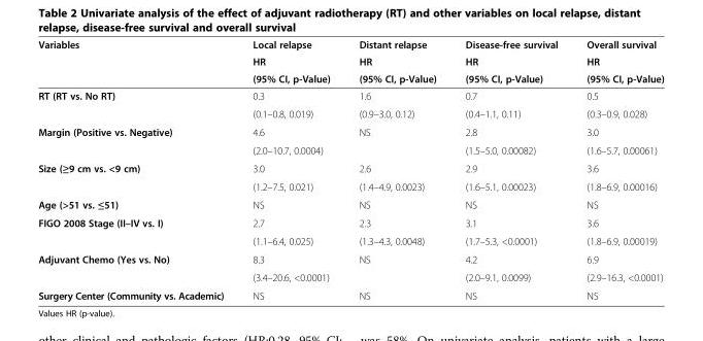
<table><thead><tr><td rowspan="3">Variables</td><td rowspan="3">Local relapse HR (95% CI, p-Value)</td><td rowspan="3">Distant relapse HR (95% CI, p-Value)</td><td rowspan="3">Disease-free survival HR (95% CI, p-Value)</td><td rowspan="3">Overall survival HR (95% CI, p-Value)</td></tr><tr></tr><tr></tr></thead><tbody><tr><td rowspan="2">RT (RT vs. No RT)</td><td>0.3</td><td>1.6</td><td>0.7</td><td>0.5</td></tr><tr><td>(0.1–0.8, 0.019)</td><td>(0.9–3.0, 0.12)</td><td>(0.4–1.1, 0.11)</td><td>(0.3–0.9, 0.028)</td></tr><tr><td rowspan="2">Margin (Positive vs. Negative)</td><td>4.6</td><td rowspan="2">NS</td><td>2.8</td><td>3.0</td></tr><tr><td>(2.0–10.7, 0.0004)</td><td>(1.5–5.0, 0.00082)</td><td>(1.6–5.7, 0.00061)</td></tr><tr><td rowspan="2">Size (≥9 cm vs. &lt;9 cm)</td><td>3.0</td><td>2.6</td><td>2.9</td><td>3.6</td></tr><tr><td>(1.2–7.5, 0.021)</td><td>(1.4–4.9, 0.0023)</td><td>(1.6–5.1, 0.00023)</td><td>(1.8–6.9, 0.00016)</td></tr><tr><td>Age (&gt;51 vs. ≤51)</td><td>NS</td><td>NS</td><td>NS</td><td>NS</td></tr><tr><td rowspan="2">FIGO 2008 Stage (II–IV vs. I)</td><td>2.7</td><td>2.3</td><td>3.1</td><td>3.6</td></tr><tr><td>(1.1–6.4, 0.025)</td><td>(1.3–4.3, 0.0048)</td><td>(1.7–5.3, &lt;0.0001)</td><td>(1.8–6.9, 0.00019)</td></tr><tr><td rowspan="2">Adjuvant Chemo (Yes vs. No)</td><td>8.3</td><td rowspan="2">NS</td><td>4.2</td><td>6.9</td></tr><tr><td>(3.4–20.6, &lt;0.0001)</td><td>(2.0–9.1, 0.0099)</td><td>(2.9–16.3, &lt;0.0001)</td></tr><tr><td>Surgery Center (Community vs. Academic)</td><td>NS</td><td>NS</td><td>NS</td><td>NS</td></tr></tbody></table>